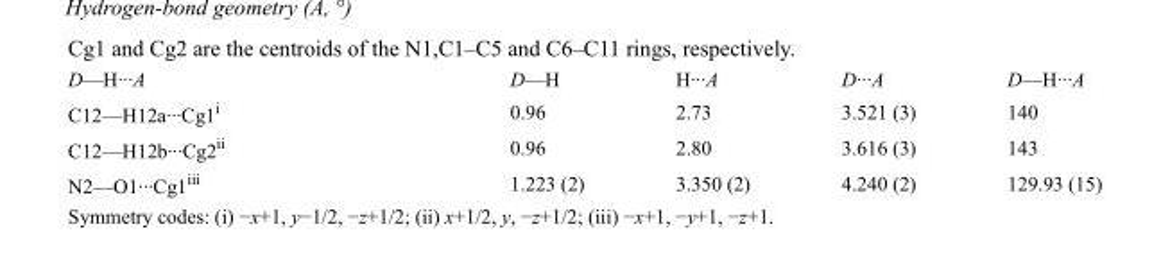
<table><tbody><tr><td>D—H···A</td><td>D—H</td><td>H···A</td><td>D···A</td><td>D—H···A</td></tr><tr><td>C12—H12a···Cg1<sup>i</sup></td><td>0.96</td><td>2.73</td><td>3.521 (3)</td><td>140</td></tr><tr><td>C12—H12b···Cg2<sup>ii</sup></td><td>0.96</td><td>2.80</td><td>3.616 (3)</td><td>143</td></tr><tr><td>N2—O1···Cg1<sup>iii</sup></td><td>1.223 (2)</td><td>3.350 (2)</td><td>4.240 (2)</td><td>129.93 (15)</td></tr></tbody></table>